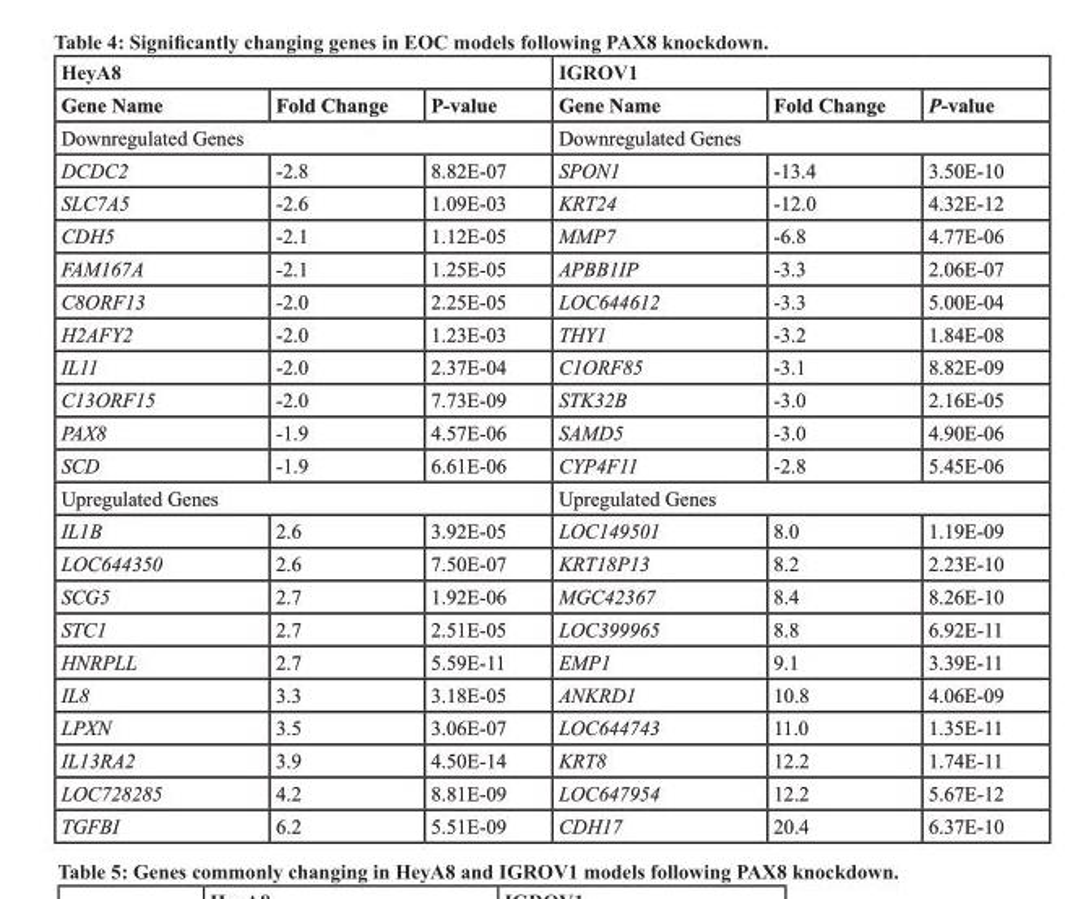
<table><thead><tr><td colspan="3">HeyA8</td><td colspan="3">IGROV1</td></tr><tr><td>Gene Name</td><td>Fold Change</td><td>P-value</td><td>Gene Name</td><td>Fold Change</td><td>P-value</td></tr></thead><tbody><tr><td colspan="3">Downregulated Genes</td><td colspan="3">Downregulated Genes</td></tr><tr><td>DCDC2</td><td>-2.8</td><td>8.82E-07</td><td>SPON1</td><td>-13.4</td><td>3.50E-10</td></tr><tr><td>SLC7A5</td><td>-2.6</td><td>1.09E-03</td><td>KRT24</td><td>-12.0</td><td>4.32E-12</td></tr><tr><td>CDH5</td><td>-2.1</td><td>1.12E-05</td><td>MMP7</td><td>-6.8</td><td>4.77E-06</td></tr><tr><td>FAM167A</td><td>-2.1</td><td>1.25E-05</td><td>APBB1IP</td><td>-3.3</td><td>2.06E-07</td></tr><tr><td>C8ORF13</td><td>-2.0</td><td>2.25E-05</td><td>LOC644612</td><td>-3.3</td><td>5.00E-04</td></tr><tr><td>H2AFY2</td><td>-2.0</td><td>1.23E-03</td><td>THY1</td><td>-3.2</td><td>1.84E-08</td></tr><tr><td>IL11</td><td>-2.0</td><td>2.37E-04</td><td>C1ORF85</td><td>-3.1</td><td>8.82E-09</td></tr><tr><td>C13ORF15</td><td>-2.0</td><td>7.73E-09</td><td>STK32B</td><td>-3.0</td><td>2.16E-05</td></tr><tr><td>PAX8</td><td>-1.9</td><td>4.57E-06</td><td>SAMD5</td><td>-3.0</td><td>4.90E-06</td></tr><tr><td>SCD</td><td>-1.9</td><td>6.61E-06</td><td>CYP4F11</td><td>-2.8</td><td>5.45E-06</td></tr><tr><td colspan="3">Upregulated Genes</td><td colspan="3">Upregulated Genes</td></tr><tr><td>IL1B</td><td>2.6</td><td>3.92E-05</td><td>LOC149501</td><td>8.0</td><td>1.19E-09</td></tr><tr><td>LOC644350</td><td>2.6</td><td>7.50E-07</td><td>KRT18P13</td><td>8.2</td><td>2.23E-10</td></tr><tr><td>SCG5</td><td>2.7</td><td>1.92E-06</td><td>MGC42367</td><td>8.4</td><td>8.26E-10</td></tr><tr><td>STC1</td><td>2.7</td><td>2.51E-05</td><td>LOC399965</td><td>8.8</td><td>6.92E-11</td></tr><tr><td>HNRPLL</td><td>2.7</td><td>5.59E-11</td><td>EMP1</td><td>9.1</td><td>3.39E-11</td></tr><tr><td>IL8</td><td>3.3</td><td>3.18E-05</td><td>ANKRD1</td><td>10.8</td><td>4.06E-09</td></tr><tr><td>LPXN</td><td>3.5</td><td>3.06E-07</td><td>LOC644743</td><td>11.0</td><td>1.35E-11</td></tr><tr><td>IL13RA2</td><td>3.9</td><td>4.50E-14</td><td>KRT8</td><td>12.2</td><td>1.74E-11</td></tr><tr><td>LOC728285</td><td>4.2</td><td>8.81E-09</td><td>LOC647954</td><td>12.2</td><td>5.67E-12</td></tr><tr><td>TGFBI</td><td>6.2</td><td>5.51E-09</td><td>CDH17</td><td>20.4</td><td>6.37E-10</td></tr></tbody></table>